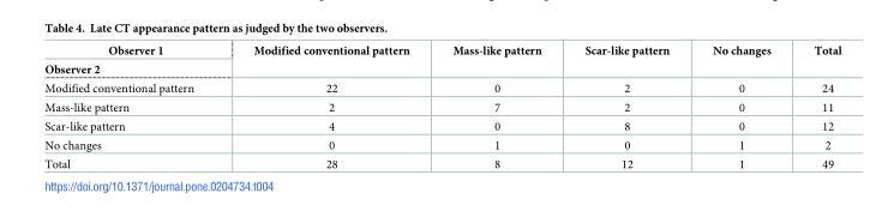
<table><thead><tr><td rowspan="2">Observer 1 Observer 2</td><td rowspan="2">Modified conventional pattern</td><td rowspan="2">Mass-like pattern</td><td rowspan="2">Scar-like pattern</td><td rowspan="2">No changes</td><td rowspan="2">Total</td></tr><tr></tr></thead><tbody><tr><td>Modified conventional pattern</td><td>22</td><td>0</td><td>2</td><td>0</td><td>24</td></tr><tr><td>Mass-like pattern</td><td>2</td><td>7</td><td>2</td><td>0</td><td>11</td></tr><tr><td>Scar-like pattern</td><td>4</td><td>0</td><td>8</td><td>0</td><td>12</td></tr><tr><td>No changes</td><td>0</td><td>1</td><td>0</td><td>1</td><td>2</td></tr><tr><td>Total</td><td>28</td><td>8</td><td>12</td><td>1</td><td>49</td></tr></tbody></table>